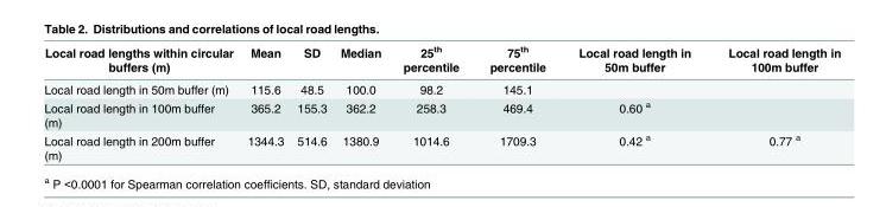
<table><thead><tr><td>Local road lengths within circular buffers (m)</td><td>Mean</td><td>SD</td><td>Median</td><td>25<sup>th</sup> percentile</td><td>75<sup>th</sup> percentile</td><td>Local road length in 50m buffer</td><td>Local road length in 100m buffer</td></tr></thead><tbody><tr><td>Local road length in 50m buffer (m)</td><td>115.6</td><td>48.5</td><td>100.0</td><td>98.2</td><td>145.1</td><td></td><td></td></tr><tr><td>Local road length in 100m buffer (m)</td><td>365.2</td><td>155.3</td><td>362.2</td><td>258.3</td><td>469.4</td><td>0.60 <sup>a</sup></td><td></td></tr><tr><td>Local road length in 200m buffer (m)</td><td>1344.3</td><td>514.6</td><td>1380.9</td><td>1014.6</td><td>1709.3</td><td>0.42 <sup>a</sup></td><td>0.77 <sup>a</sup></td></tr></tbody></table>